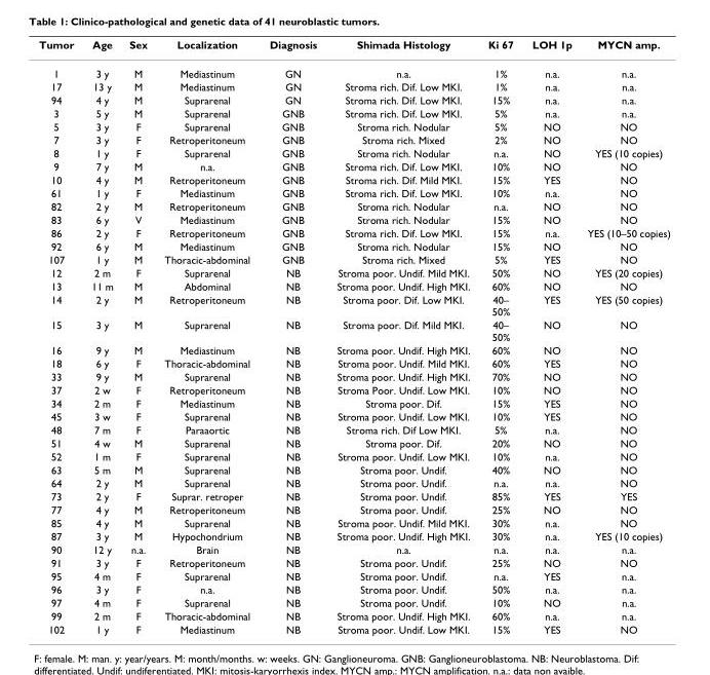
<table><thead><tr><td>Tumor</td><td>Age</td><td>Sex</td><td>Localization</td><td>Diagnosis</td><td>Shimada Histology</td><td>Ki 67</td><td>LOH 1p</td><td>MYCN amp.</td></tr></thead><tbody><tr><td>1</td><td>3 y</td><td>M</td><td>Mediastinum</td><td>GN</td><td>n.a.</td><td>1%</td><td>n.a.</td><td>n.a.</td></tr><tr><td>17</td><td>13 y</td><td>M</td><td>Mediastinum</td><td>GN</td><td>Stroma rich. Dif. Low MKI.</td><td>1%</td><td>n.a.</td><td>n.a.</td></tr><tr><td>94</td><td>4 y</td><td>M</td><td>Suprarenal</td><td>GN</td><td>Stroma rich. Dif. Low MKI.</td><td>15%</td><td>n.a.</td><td>n.a.</td></tr><tr><td>3</td><td>5 y</td><td>M</td><td>Suprarenal</td><td>GNB</td><td>Stroma rich. Dif. Low MKI.</td><td>5%</td><td>n.a.</td><td>n.a.</td></tr><tr><td>5</td><td>3 y</td><td>F</td><td>Suprarenal</td><td>GNB</td><td>Stroma rich. Nodular</td><td>5%</td><td>NO</td><td>NO</td></tr><tr><td>7</td><td>3 y</td><td>F</td><td>Retroperitoneum</td><td>GNB</td><td>Stroma rich. Mixed</td><td>2%</td><td>NO</td><td>NO</td></tr><tr><td>8</td><td>1 y</td><td>F</td><td>Suprarenal</td><td>GNB</td><td>Stroma rich. Nodular</td><td>n.a.</td><td>NO</td><td>YES (10 copies)</td></tr><tr><td>9</td><td>7 y</td><td>M</td><td>n.a.</td><td>GNB</td><td>Stroma rich. Dif. Low MKI.</td><td>10%</td><td>NO</td><td>NO</td></tr><tr><td>10</td><td>4 y</td><td>M</td><td>Retroperitoneum</td><td>GNB</td><td>Stroma rich. Dif. Mild MKI.</td><td>15%</td><td>YES</td><td>NO</td></tr><tr><td>61</td><td>1 y</td><td>F</td><td>Mediastinum</td><td>GNB</td><td>Stroma rich. Dif. Low MKI.</td><td>10%</td><td>n.a.</td><td>NO</td></tr><tr><td>82</td><td>2 y</td><td>M</td><td>Retroperitoneum</td><td>GNB</td><td>Stroma rich. Nodular</td><td>n.a.</td><td>NO</td><td>NO</td></tr><tr><td>83</td><td>6 y</td><td>V</td><td>Mediastinum</td><td>GNB</td><td>Stroma rich. Nodular</td><td>15%</td><td>NO</td><td>NO</td></tr><tr><td>86</td><td>2 y</td><td>F</td><td>Retroperitoneum</td><td>GNB</td><td>Stroma rich. Dif. Low MKI.</td><td>15%</td><td>n.a.</td><td>YES (10–50 copies)</td></tr><tr><td>92</td><td>6 y</td><td>M</td><td>Mediastinum</td><td>GNB</td><td>Stroma rich. Nodular</td><td>15%</td><td>NO</td><td>NO</td></tr><tr><td>107</td><td>1 y</td><td>M</td><td>Thoracic-abdominal</td><td>GNB</td><td>Stroma rich. Mixed</td><td>5%</td><td>YES</td><td>NO</td></tr><tr><td>12</td><td>2 m</td><td>F</td><td>Suprarenal</td><td>NB</td><td>Stroma poor. Undif. Mild MKI.</td><td>50%</td><td>NO</td><td>YES (20 copies)</td></tr><tr><td>13</td><td>11 m</td><td>M</td><td>Abdominal</td><td>NB</td><td>Stroma poor. Undif. High MKI.</td><td>60%</td><td>NO</td><td>NO</td></tr><tr><td>14</td><td>2 y</td><td>M</td><td>Retroperitoneum</td><td>NB</td><td>Stroma poor. Dif. Low MKI.</td><td>40– 50%</td><td>YES</td><td>YES (50 copies)</td></tr><tr><td>15</td><td>3 y</td><td>M</td><td>Suprarenal</td><td>NB</td><td>Stroma poor. Dif. Mild MKI.</td><td>40– 50%</td><td>NO</td><td>NO</td></tr><tr><td>16</td><td>9 y</td><td>M</td><td>Mediastinum</td><td>NB</td><td>Stroma poor. Undif. High MKI.</td><td>60%</td><td>NO</td><td>NO</td></tr><tr><td>18</td><td>6 y</td><td>F</td><td>Thoracic-abdominal</td><td>NB</td><td>Stroma poor. Undif. Mild MKI.</td><td>60%</td><td>YES</td><td>NO</td></tr><tr><td>33</td><td>9 y</td><td>M</td><td>Suprarenal</td><td>NB</td><td>Stroma poor. Undif. High MKI.</td><td>70%</td><td>NO</td><td>NO</td></tr><tr><td>37</td><td>2 w</td><td>F</td><td>Retroperitoneum</td><td>NB</td><td>Stroma Poor. Undif. Low MKI.</td><td>10%</td><td>NO</td><td>NO</td></tr><tr><td>34</td><td>2 m</td><td>F</td><td>Mediastinum</td><td>NB</td><td>Stroma poor. Dif.</td><td>15%</td><td>YES</td><td>NO</td></tr><tr><td>45</td><td>3 w</td><td>F</td><td>Suprarenal</td><td>NB</td><td>Stroma poor. Undif. Low MKI.</td><td>10%</td><td>YES</td><td>NO</td></tr><tr><td>48</td><td>7 m</td><td>F</td><td>Paraaortic</td><td>NB</td><td>Stroma rich. Dif Low MKI.</td><td>5%</td><td>n.a.</td><td>NO</td></tr><tr><td>51</td><td>4 w</td><td>M</td><td>Suprarenal</td><td>NB</td><td>Stroma poor. Dif.</td><td>20%</td><td>NO</td><td>NO</td></tr><tr><td>52</td><td>1 m</td><td>F</td><td>Suprarenal</td><td>NB</td><td>Stroma poor. Undif. Low MKI.</td><td>10%</td><td>n.a.</td><td>NO</td></tr><tr><td>63</td><td>5 m</td><td>M</td><td>Suprarenal</td><td>NB</td><td>Stroma poor. Undif.</td><td>40%</td><td>NO</td><td>NO</td></tr><tr><td>64</td><td>2 y</td><td>M</td><td>Suprarenal</td><td>NB</td><td>Stroma poor. Undif.</td><td>n.a.</td><td>n.a.</td><td>NO</td></tr><tr><td>73</td><td>2 y</td><td>F</td><td>Suprar. retroper</td><td>NB</td><td>Stroma poor. Undif.</td><td>85%</td><td>YES</td><td>YES</td></tr><tr><td>77</td><td>4 y</td><td>M</td><td>Retroperitoneum</td><td>NB</td><td>Stroma poor. Undif.</td><td>25%</td><td>NO</td><td>NO</td></tr><tr><td>85</td><td>4 y</td><td>M</td><td>Suprarenal</td><td>NB</td><td>Stroma poor. Undif. Mild MKI.</td><td>30%</td><td>n.a.</td><td>NO</td></tr><tr><td>87</td><td>3 y</td><td>M</td><td>Hypochondrium</td><td>NB</td><td>Stroma poor. Undif. High MKI.</td><td>30%</td><td>n.a.</td><td>YES (10 copies)</td></tr><tr><td>90</td><td>12 y</td><td>n.a.</td><td>Brain</td><td>NB</td><td>n.a.</td><td>n.a.</td><td>n.a.</td><td>n.a.</td></tr><tr><td>91</td><td>3 y</td><td>F</td><td>Retroperitoneum</td><td>NB</td><td>Stroma poor. Undif.</td><td>25%</td><td>NO</td><td>NO</td></tr><tr><td>95</td><td>4 m</td><td>F</td><td>Suprarenal</td><td>NB</td><td>Stroma poor. Undif.</td><td>n.a.</td><td>YES</td><td>n.a.</td></tr><tr><td>96</td><td>3 y</td><td>F</td><td>n.a.</td><td>NB</td><td>Stroma poor. Undif.</td><td>50%</td><td>n.a.</td><td>n.a.</td></tr><tr><td>97</td><td>4 m</td><td>F</td><td>Suprarenal</td><td>NB</td><td>Stroma poor. Undif.</td><td>10%</td><td>NO</td><td>n.a.</td></tr><tr><td>99</td><td>2 m</td><td>F</td><td>Thoracic-abdominal</td><td>NB</td><td>Stroma poor. Undif. High MKI.</td><td>60%</td><td>n.a.</td><td>n.a.</td></tr><tr><td>102</td><td>1 y</td><td>F</td><td>Mediastinum</td><td>NB</td><td>Stroma poor. Undif. Low MKI.</td><td>15%</td><td>YES</td><td>NO</td></tr></tbody></table>